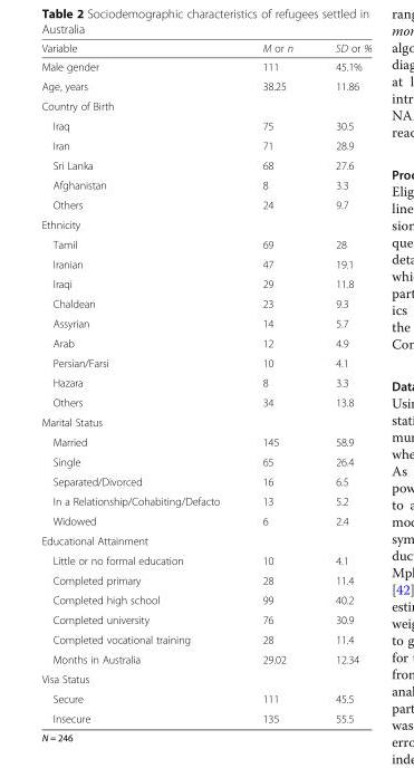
<table><thead><tr><td>Variable</td><td>M or n</td><td>SD or %</td></tr></thead><tbody><tr><td>Male gender</td><td>111</td><td>45.1%</td></tr><tr><td>Age, years</td><td>38.25</td><td>11.86</td></tr><tr><td colspan="3">Country of Birth</td></tr><tr><td>Iraq</td><td>75</td><td>30.5</td></tr><tr><td>Iran</td><td>71</td><td>28.9</td></tr><tr><td>Sri Lanka</td><td>68</td><td>27.6</td></tr><tr><td>Afghanistan</td><td>8</td><td>3.3</td></tr><tr><td>Others</td><td>24</td><td>9.7</td></tr><tr><td colspan="3">Ethnicity</td></tr><tr><td>Tamil</td><td>69</td><td>28</td></tr><tr><td>Iranian</td><td>47</td><td>19.1</td></tr><tr><td>Iraqi</td><td>29</td><td>11.8</td></tr><tr><td>Chaldean</td><td>23</td><td>9.3</td></tr><tr><td>Assyrian</td><td>14</td><td>5.7</td></tr><tr><td>Arab</td><td>12</td><td>4.9</td></tr><tr><td>Persian/Farsi</td><td>10</td><td>4.1</td></tr><tr><td>Hazara</td><td>8</td><td>3.3</td></tr><tr><td>Others</td><td>34</td><td>13.8</td></tr><tr><td colspan="3">Marital Status</td></tr><tr><td>Married</td><td>145</td><td>58.9</td></tr><tr><td>Single</td><td>65</td><td>26.4</td></tr><tr><td>Separated/Divorced</td><td>16</td><td>6.5</td></tr><tr><td>In a Relationship/Cohabiting/Defacto</td><td>13</td><td>5.2</td></tr><tr><td>Widowed</td><td>6</td><td>2.4</td></tr><tr><td colspan="3">Educational Attainment</td></tr><tr><td>Little or no formal education</td><td>10</td><td>4.1</td></tr><tr><td>Completed primary</td><td>28</td><td>11.4</td></tr><tr><td>Completed high school</td><td>99</td><td>40.2</td></tr><tr><td>Completed university</td><td>76</td><td>30.9</td></tr><tr><td>Completed vocational training</td><td>28</td><td>11.4</td></tr><tr><td>Months in Australia</td><td>29.02</td><td>12.34</td></tr><tr><td colspan="3">Visa Status</td></tr><tr><td>Secure</td><td>111</td><td>45.5</td></tr><tr><td>Insecure</td><td>135</td><td>55.5</td></tr></tbody></table>